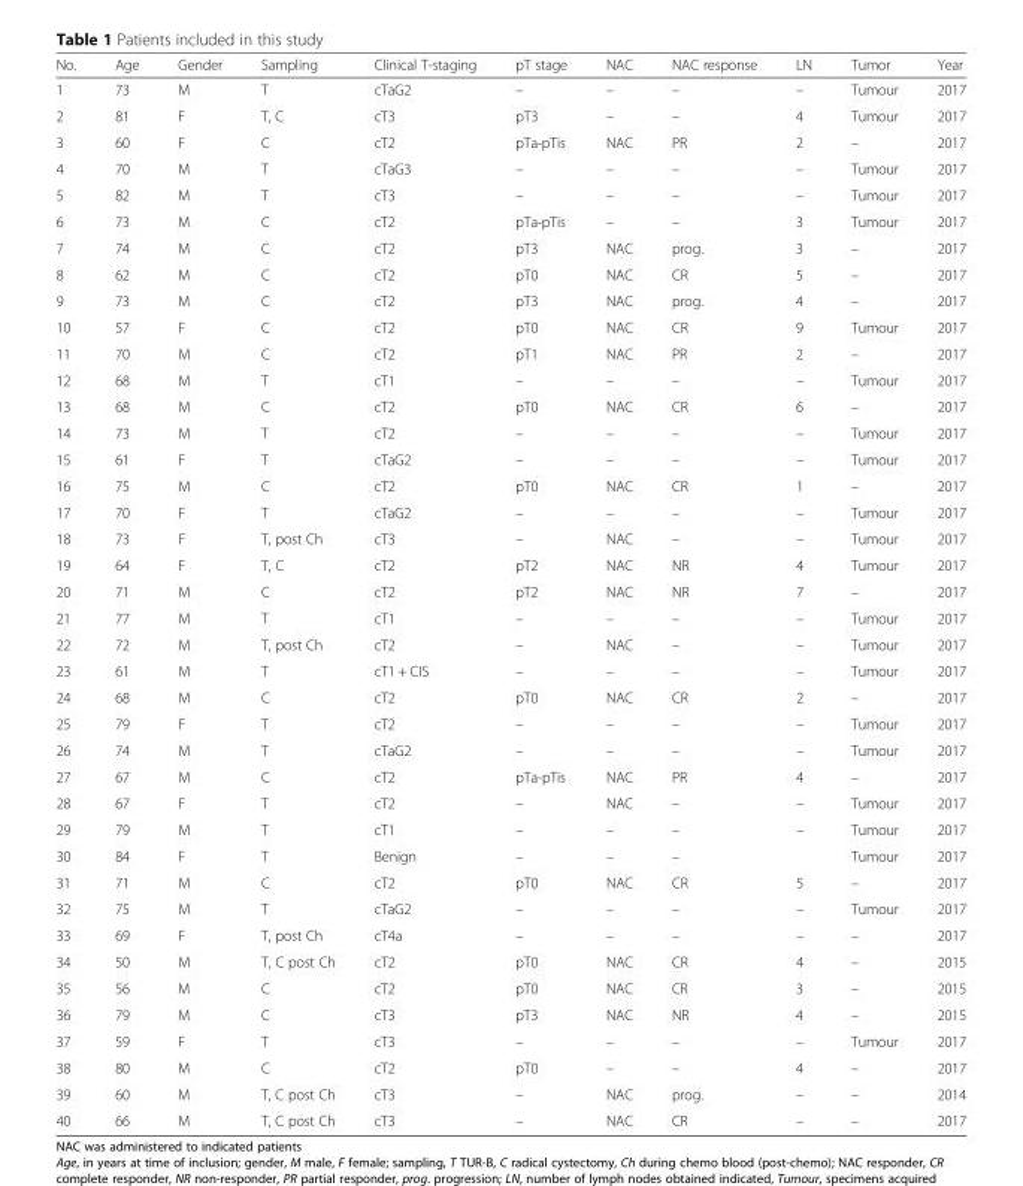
<table><thead><tr><td>No.</td><td>Age</td><td>Gender</td><td>Sampling</td><td>Clinical T-staging</td><td>pT stage</td><td>NAC</td><td>NAC response</td><td>LN</td><td>Tumor</td><td>Year</td></tr></thead><tbody><tr><td>1</td><td>73</td><td>M</td><td>T</td><td>cTaG2</td><td>–</td><td>–</td><td>–</td><td>–</td><td>Tumour</td><td>2017</td></tr><tr><td>2</td><td>81</td><td>F</td><td>T, C</td><td>cT3</td><td>pT3</td><td>–</td><td>–</td><td>4</td><td>Tumour</td><td>2017</td></tr><tr><td>3</td><td>60</td><td>F</td><td>C</td><td>cT2</td><td>pTa-pTis</td><td>NAC</td><td>PR</td><td>2</td><td>–</td><td>2017</td></tr><tr><td>4</td><td>70</td><td>M</td><td>T</td><td>cTaG3</td><td>–</td><td>–</td><td>–</td><td>–</td><td>Tumour</td><td>2017</td></tr><tr><td>5</td><td>82</td><td>M</td><td>T</td><td>cT3</td><td>–</td><td>–</td><td>–</td><td>–</td><td>Tumour</td><td>2017</td></tr><tr><td>6</td><td>73</td><td>M</td><td>C</td><td>cT2</td><td>pTa-pTis</td><td>–</td><td>–</td><td>3</td><td>Tumour</td><td>2017</td></tr><tr><td>7</td><td>74</td><td>M</td><td>C</td><td>cT2</td><td>pT3</td><td>NAC</td><td>prog.</td><td>3</td><td>–</td><td>2017</td></tr><tr><td>8</td><td>62</td><td>M</td><td>C</td><td>cT2</td><td>pT0</td><td>NAC</td><td>CR</td><td>5</td><td>–</td><td>2017</td></tr><tr><td>9</td><td>73</td><td>M</td><td>C</td><td>cT2</td><td>pT3</td><td>NAC</td><td>prog.</td><td>4</td><td>–</td><td>2017</td></tr><tr><td>10</td><td>57</td><td>F</td><td>C</td><td>cT2</td><td>pT0</td><td>NAC</td><td>CR</td><td>9</td><td>Tumour</td><td>2017</td></tr><tr><td>11</td><td>70</td><td>M</td><td>C</td><td>cT2</td><td>pT1</td><td>NAC</td><td>PR</td><td>2</td><td>–</td><td>2017</td></tr><tr><td>12</td><td>68</td><td>M</td><td>T</td><td>cT1</td><td>–</td><td>–</td><td>–</td><td>–</td><td>Tumour</td><td>2017</td></tr><tr><td>13</td><td>68</td><td>M</td><td>C</td><td>cT2</td><td>pT0</td><td>NAC</td><td>CR</td><td>6</td><td>–</td><td>2017</td></tr><tr><td>14</td><td>73</td><td>M</td><td>T</td><td>cT2</td><td>–</td><td>–</td><td>–</td><td>–</td><td>Tumour</td><td>2017</td></tr><tr><td>15</td><td>61</td><td>F</td><td>T</td><td>cTaG2</td><td>–</td><td>–</td><td>–</td><td>–</td><td>Tumour</td><td>2017</td></tr><tr><td>16</td><td>75</td><td>M</td><td>C</td><td>cT2</td><td>pT0</td><td>NAC</td><td>CR</td><td>1</td><td>–</td><td>2017</td></tr><tr><td>17</td><td>70</td><td>F</td><td>T</td><td>cTaG2</td><td>–</td><td>–</td><td>–</td><td>–</td><td>Tumour</td><td>2017</td></tr><tr><td>18</td><td>73</td><td>F</td><td>T, post Ch</td><td>cT3</td><td>–</td><td>NAC</td><td>–</td><td>–</td><td>Tumour</td><td>2017</td></tr><tr><td>19</td><td>64</td><td>F</td><td>T, C</td><td>cT2</td><td>pT2</td><td>NAC</td><td>NR</td><td>4</td><td>Tumour</td><td>2017</td></tr><tr><td>20</td><td>71</td><td>M</td><td>C</td><td>cT2</td><td>pT2</td><td>NAC</td><td>NR</td><td>7</td><td>–</td><td>2017</td></tr><tr><td>21</td><td>77</td><td>M</td><td>T</td><td>cT1</td><td>–</td><td>–</td><td>–</td><td>–</td><td>Tumour</td><td>2017</td></tr><tr><td>22</td><td>72</td><td>M</td><td>T, post Ch</td><td>cT2</td><td>–</td><td>NAC</td><td>–</td><td>–</td><td>Tumour</td><td>2017</td></tr><tr><td>23</td><td>61</td><td>M</td><td>T</td><td>cT1 + CIS</td><td>–</td><td>–</td><td>–</td><td>–</td><td>Tumour</td><td>2017</td></tr><tr><td>24</td><td>68</td><td>M</td><td>C</td><td>cT2</td><td>pT0</td><td>NAC</td><td>CR</td><td>2</td><td>–</td><td>2017</td></tr><tr><td>25</td><td>79</td><td>F</td><td>T</td><td>cT2</td><td>–</td><td>–</td><td>–</td><td>–</td><td>Tumour</td><td>2017</td></tr><tr><td>26</td><td>74</td><td>M</td><td>T</td><td>cTaG2</td><td>–</td><td>–</td><td>–</td><td>–</td><td>Tumour</td><td>2017</td></tr><tr><td>27</td><td>67</td><td>M</td><td>C</td><td>cT2</td><td>pTa-pTis</td><td>NAC</td><td>PR</td><td>4</td><td>–</td><td>2017</td></tr><tr><td>28</td><td>67</td><td>F</td><td>T</td><td>cT2</td><td>–</td><td>NAC</td><td>–</td><td>–</td><td>Tumour</td><td>2017</td></tr><tr><td>29</td><td>79</td><td>M</td><td>T</td><td>cT1</td><td>–</td><td>–</td><td>–</td><td>–</td><td>Tumour</td><td>2017</td></tr><tr><td>30</td><td>84</td><td>F</td><td>T</td><td>Benign</td><td>–</td><td>–</td><td>–</td><td></td><td>Tumour</td><td>2017</td></tr><tr><td>31</td><td>71</td><td>M</td><td>C</td><td>cT2</td><td>pT0</td><td>NAC</td><td>CR</td><td>5</td><td>–</td><td>2017</td></tr><tr><td>32</td><td>75</td><td>M</td><td>T</td><td>cTaG2</td><td>–</td><td>–</td><td>–</td><td>–</td><td>Tumour</td><td>2017</td></tr><tr><td>33</td><td>69</td><td>F</td><td>T, post Ch</td><td>cT4a</td><td>–</td><td>–</td><td>–</td><td>–</td><td>–</td><td>2017</td></tr><tr><td>34</td><td>50</td><td>M</td><td>T, C post Ch</td><td>cT2</td><td>pT0</td><td>NAC</td><td>CR</td><td>4</td><td>–</td><td>2015</td></tr><tr><td>35</td><td>56</td><td>M</td><td>C</td><td>cT2</td><td>pT0</td><td>NAC</td><td>CR</td><td>3</td><td>–</td><td>2015</td></tr><tr><td>36</td><td>79</td><td>M</td><td>C</td><td>cT3</td><td>pT3</td><td>NAC</td><td>NR</td><td>4</td><td>–</td><td>2015</td></tr><tr><td>37</td><td>59</td><td>F</td><td>T</td><td>cT3</td><td>–</td><td>–</td><td>–</td><td>–</td><td>Tumour</td><td>2017</td></tr><tr><td>38</td><td>80</td><td>M</td><td>C</td><td>cT2</td><td>pT0</td><td>–</td><td>–</td><td>4</td><td>–</td><td>2017</td></tr><tr><td>39</td><td>60</td><td>M</td><td>T, C post Ch</td><td>cT3</td><td>–</td><td>NAC</td><td>prog.</td><td>–</td><td>–</td><td>2014</td></tr><tr><td>40</td><td>66</td><td>M</td><td>T, C post Ch</td><td>cT3</td><td>–</td><td>NAC</td><td>CR</td><td>–</td><td>–</td><td>2017</td></tr></tbody></table>